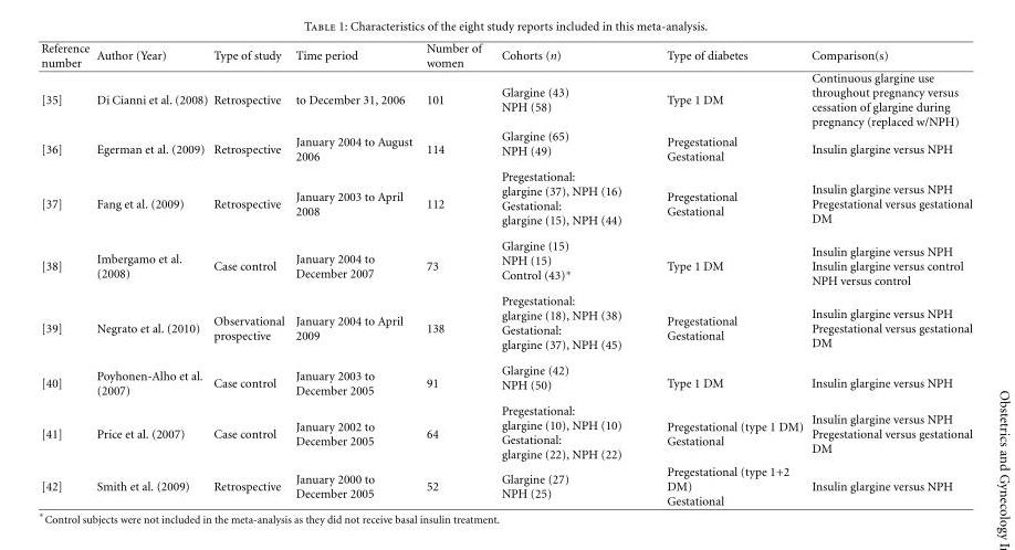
<table><thead><tr><td>Reference number</td><td>Author (Year)</td><td>Type of study</td><td>Time period</td><td>Number of women</td><td>Cohorts (n)</td><td>Type of diabetes</td><td>Comparison(s)</td></tr></thead><tbody><tr><td>[35]</td><td>Di Cianni et al. (2008)</td><td>Retrospective</td><td>to December 31, 2006</td><td>101</td><td>Glargine (43) NPH (58)</td><td>Type 1 DM</td><td>Continuous glargine use throughout pregnancy versus cessation of glargine during pregnancy (replaced w/NPH)</td></tr><tr><td>[36]</td><td>Egerman et al. (2009)</td><td>Retrospective</td><td>January 2004 to August 2006</td><td>114</td><td>Glargine (65) NPH (49)</td><td>Pregestational Gestational</td><td>Insulin glargine versus NPH</td></tr><tr><td>[37]</td><td>Fang et al. (2009)</td><td>Retrospective</td><td>January 2003 to April 2008</td><td>112</td><td>Pregestational: glargine (37), NPH (16) Gestational: glargine (15), NPH (44)</td><td>Pregestational Gestational</td><td>Insulin glargine versus NPH Pregestational versus gestational DM</td></tr><tr><td>[38]</td><td>Imbergamo et al. (2008)</td><td>Case control</td><td>January 2004 to December 2007</td><td>73</td><td>Glargine (15) NPH (15) Control (43)∗</td><td>Type 1 DM</td><td>Insulin glargine versus NPH Insulin glargine versus control NPH versus control</td></tr><tr><td>[39]</td><td>Negrato et al. (2010)</td><td>Observational prospective</td><td>January 2004 to April 2009</td><td>138</td><td>Pregestational: glargine (18), NPH (38) Gestational: glargine (37), NPH (45)</td><td>Pregestational Gestational</td><td>Insulin glargine versus NPH Pregestational versus gestational DM</td></tr><tr><td>[40]</td><td>Poyhonen-Alho et al. (2007)</td><td>Case control</td><td>January 2003 to December 2005</td><td>91</td><td>Glargine (42) NPH (50)</td><td>Type 1 DM</td><td>Insulin glargine versus NPH</td></tr><tr><td>[41]</td><td>Price et al. (2007)</td><td>Case control</td><td>January 2002 to December 2005</td><td>64</td><td>Pregestational: glargine (10), NPH (10) Gestational: glargine (22), NPH (22)</td><td>Pregestational (type 1 DM) Gestational</td><td>Insulin glargine versus NPH Pregestational versus gestational DM</td></tr><tr><td>[42]</td><td>Smith et al. (2009)</td><td>Retrospective</td><td>January 2000 to December 2005</td><td>52</td><td>Glargine (27) NPH (25)</td><td>Pregestational (type 1+2 DM) Gestational</td><td>Insulin glargine versus NPH</td></tr></tbody></table>